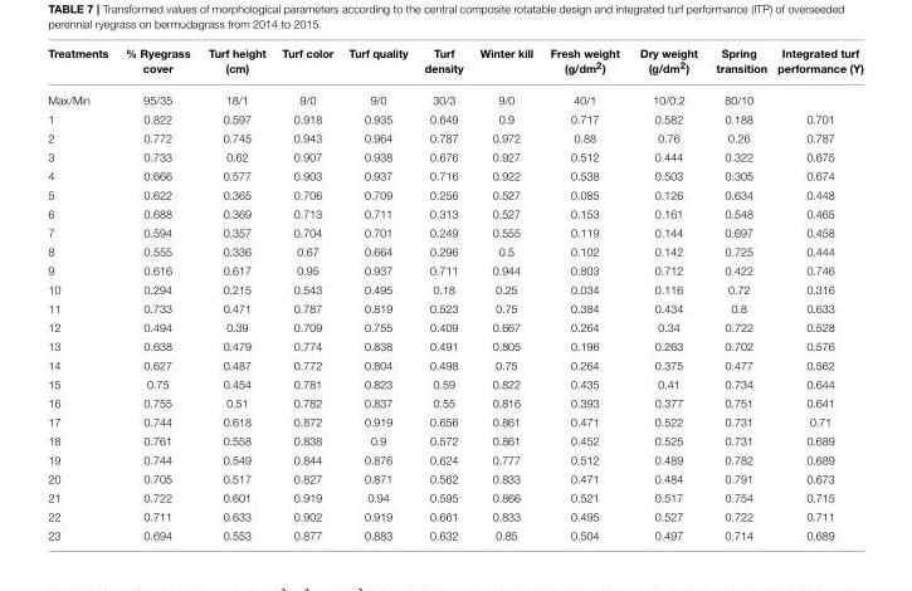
<table><thead><tr><td>Treatments</td><td>% Ryegrass cover</td><td>Turf height (cm)</td><td>Turf color</td><td>Turf quality</td><td>Turf density</td><td>Winter kill</td><td>Fresh weight (g/dm<sup>2</sup>)</td><td>Dry weight (g/dm<sup>2</sup>)</td><td>Spring transition</td><td>Integrated turf performance (Y)</td></tr></thead><tbody><tr><td>Max/Min</td><td>95/35</td><td>18/1</td><td>9/0</td><td>9/0</td><td>30/3</td><td>9/0</td><td>40/1</td><td>10/0.2</td><td>80/10</td><td></td></tr><tr><td>1</td><td>0.822</td><td>0.597</td><td>0.918</td><td>0.935</td><td>0.649</td><td>0.9</td><td>0.717</td><td>0.582</td><td>0.188</td><td>0.701</td></tr><tr><td>2</td><td>0.772</td><td>0.745</td><td>0.943</td><td>0.964</td><td>0.787</td><td>0.972</td><td>0.88</td><td>0.76</td><td>0.26</td><td>0.787</td></tr><tr><td>3</td><td>0.733</td><td>0.62</td><td>0.907</td><td>0.938</td><td>0.676</td><td>0.927</td><td>0.512</td><td>0.444</td><td>0.322</td><td>0.675</td></tr><tr><td>4</td><td>0.666</td><td>0.577</td><td>0.903</td><td>0.937</td><td>0.716</td><td>0.922</td><td>0.538</td><td>0.503</td><td>0.305</td><td>0.674</td></tr><tr><td>5</td><td>0.622</td><td>0.365</td><td>0.706</td><td>0.709</td><td>0.256</td><td>0.527</td><td>0.085</td><td>0.126</td><td>0.634</td><td>0.448</td></tr><tr><td>6</td><td>0.688</td><td>0.369</td><td>0.713</td><td>0.711</td><td>0.313</td><td>0.527</td><td>0.153</td><td>0.161</td><td>0.548</td><td>0.465</td></tr><tr><td>7</td><td>0.594</td><td>0.357</td><td>0.704</td><td>0.701</td><td>0.249</td><td>0.555</td><td>0.119</td><td>0.144</td><td>0.697</td><td>0.458</td></tr><tr><td>8</td><td>0.555</td><td>0.336</td><td>0.67</td><td>0.664</td><td>0.296</td><td>0.5</td><td>0.102</td><td>0.142</td><td>0.725</td><td>0.444</td></tr><tr><td>9</td><td>0.616</td><td>0.617</td><td>0.95</td><td>0.937</td><td>0.711</td><td>0.944</td><td>0.803</td><td>0.712</td><td>0.422</td><td>0.746</td></tr><tr><td>10</td><td>0.294</td><td>0.215</td><td>0.543</td><td>0.495</td><td>0.18</td><td>0.25</td><td>0.034</td><td>0.116</td><td>0.72</td><td>0.316</td></tr><tr><td>11</td><td>0.733</td><td>0.471</td><td>0.787</td><td>0.819</td><td>0.523</td><td>0.75</td><td>0.384</td><td>0.434</td><td>0.8</td><td>0.633</td></tr><tr><td>12</td><td>0.494</td><td>0.39</td><td>0.709</td><td>0.755</td><td>0.409</td><td>0.667</td><td>0.264</td><td>0.34</td><td>0.722</td><td>0.528</td></tr><tr><td>13</td><td>0.638</td><td>0.479</td><td>0.774</td><td>0.838</td><td>0.491</td><td>0.805</td><td>0.196</td><td>0.263</td><td>0.702</td><td>0.576</td></tr><tr><td>14</td><td>0.627</td><td>0.487</td><td>0.772</td><td>0.804</td><td>0.498</td><td>0.75</td><td>0.264</td><td>0.375</td><td>0.477</td><td>0.562</td></tr><tr><td>15</td><td>0.75</td><td>0.454</td><td>0.781</td><td>0.823</td><td>0.59</td><td>0.822</td><td>0.435</td><td>0.41</td><td>0.734</td><td>0.644</td></tr><tr><td>16</td><td>0.755</td><td>0.51</td><td>0.782</td><td>0.837</td><td>0.55</td><td>0.816</td><td>0.393</td><td>0.377</td><td>0.751</td><td>0.641</td></tr><tr><td>17</td><td>0.744</td><td>0.618</td><td>0.872</td><td>0.919</td><td>0.656</td><td>0.861</td><td>0.471</td><td>0.522</td><td>0.731</td><td>0.71</td></tr><tr><td>18</td><td>0.761</td><td>0.558</td><td>0.838</td><td>0.9</td><td>0.572</td><td>0.861</td><td>0.452</td><td>0.525</td><td>0.731</td><td>0.689</td></tr><tr><td>19</td><td>0.744</td><td>0.549</td><td>0.844</td><td>0.876</td><td>0.624</td><td>0.777</td><td>0.512</td><td>0.489</td><td>0.782</td><td>0.689</td></tr><tr><td>20</td><td>0.705</td><td>0.517</td><td>0.827</td><td>0.871</td><td>0.562</td><td>0.833</td><td>0.471</td><td>0.484</td><td>0.791</td><td>0.673</td></tr><tr><td>21</td><td>0.722</td><td>0.601</td><td>0.919</td><td>0.94</td><td>0.595</td><td>0.866</td><td>0.521</td><td>0.517</td><td>0.754</td><td>0.715</td></tr><tr><td>22</td><td>0.711</td><td>0.633</td><td>0.902</td><td>0.919</td><td>0.661</td><td>0.833</td><td>0.495</td><td>0.527</td><td>0.722</td><td>0.711</td></tr><tr><td>23</td><td>0.694</td><td>0.553</td><td>0.877</td><td>0.883</td><td>0.632</td><td>0.85</td><td>0.504</td><td>0.497</td><td>0.714</td><td>0.689</td></tr></tbody></table>